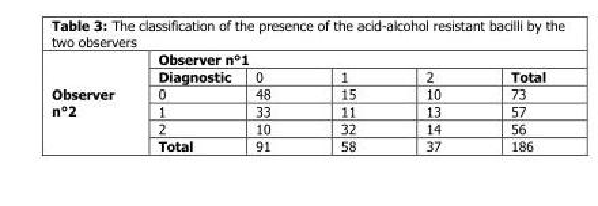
<table><tbody><tr><td rowspan="6">Observer n°2</td><td colspan="5">Observer n°1</td></tr><tr><td>Diagnostic</td><td>0</td><td>1</td><td>2</td><td>Total</td></tr><tr><td>0</td><td>48</td><td>15</td><td>10</td><td>73</td></tr><tr><td>1</td><td>33</td><td>11</td><td>13</td><td>57</td></tr><tr><td>2</td><td>10</td><td>32</td><td>14</td><td>56</td></tr><tr><td>Total</td><td>91</td><td>58</td><td>37</td><td>186</td></tr></tbody></table>